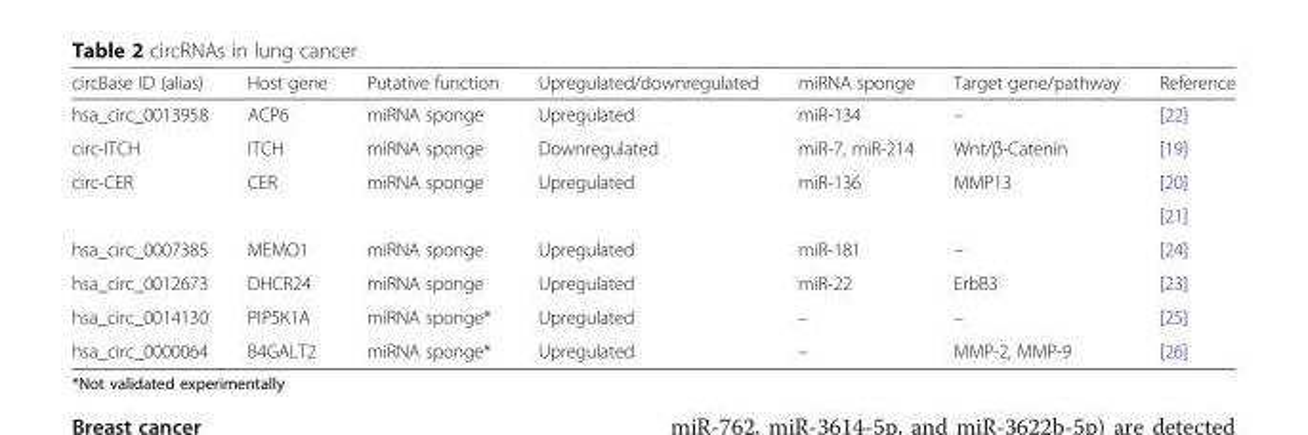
<table><thead><tr><td>circBase ID (alias)</td><td>Host gene</td><td>Putative function</td><td>Upregulated/downregulated</td><td>miRNA sponge</td><td>Target gene/pathway</td><td>Reference</td></tr></thead><tbody><tr><td>hsa_circ_0013958</td><td>ACP6</td><td>miRNA sponge</td><td>Upregulated</td><td>miR-134</td><td>–</td><td>[22]</td></tr><tr><td>circ-ITCH</td><td>ITCH</td><td>miRNA sponge</td><td>Downregulated</td><td>miR-7, miR-214</td><td>Wnt/β-Catenin</td><td>[19]</td></tr><tr><td rowspan="2">circ-CER</td><td rowspan="2">CER</td><td rowspan="2">miRNA sponge</td><td rowspan="2">Upregulated</td><td rowspan="2">miR-136</td><td rowspan="2">MMP13</td><td>[20]</td></tr><tr><td>[21]</td></tr><tr><td>hsa_circ_0007385</td><td>MEMO1</td><td>miRNA sponge</td><td>Upregulated</td><td>miR-181</td><td>–</td><td>[24]</td></tr><tr><td>hsa_circ_0012673</td><td>DHCR24</td><td>miRNA sponge</td><td>Upregulated</td><td>miR-22</td><td>ErbB3</td><td>[23]</td></tr><tr><td>hsa_circ_0014130</td><td>PIP5K1A</td><td>miRNA sponge*</td><td>Upregulated</td><td>–</td><td>–</td><td>[25]</td></tr><tr><td>hsa_circ_0000064</td><td>B4GALT2</td><td>miRNA sponge*</td><td>Upregulated</td><td>–</td><td>MMP-2, MMP-9</td><td>[26]</td></tr></tbody></table>